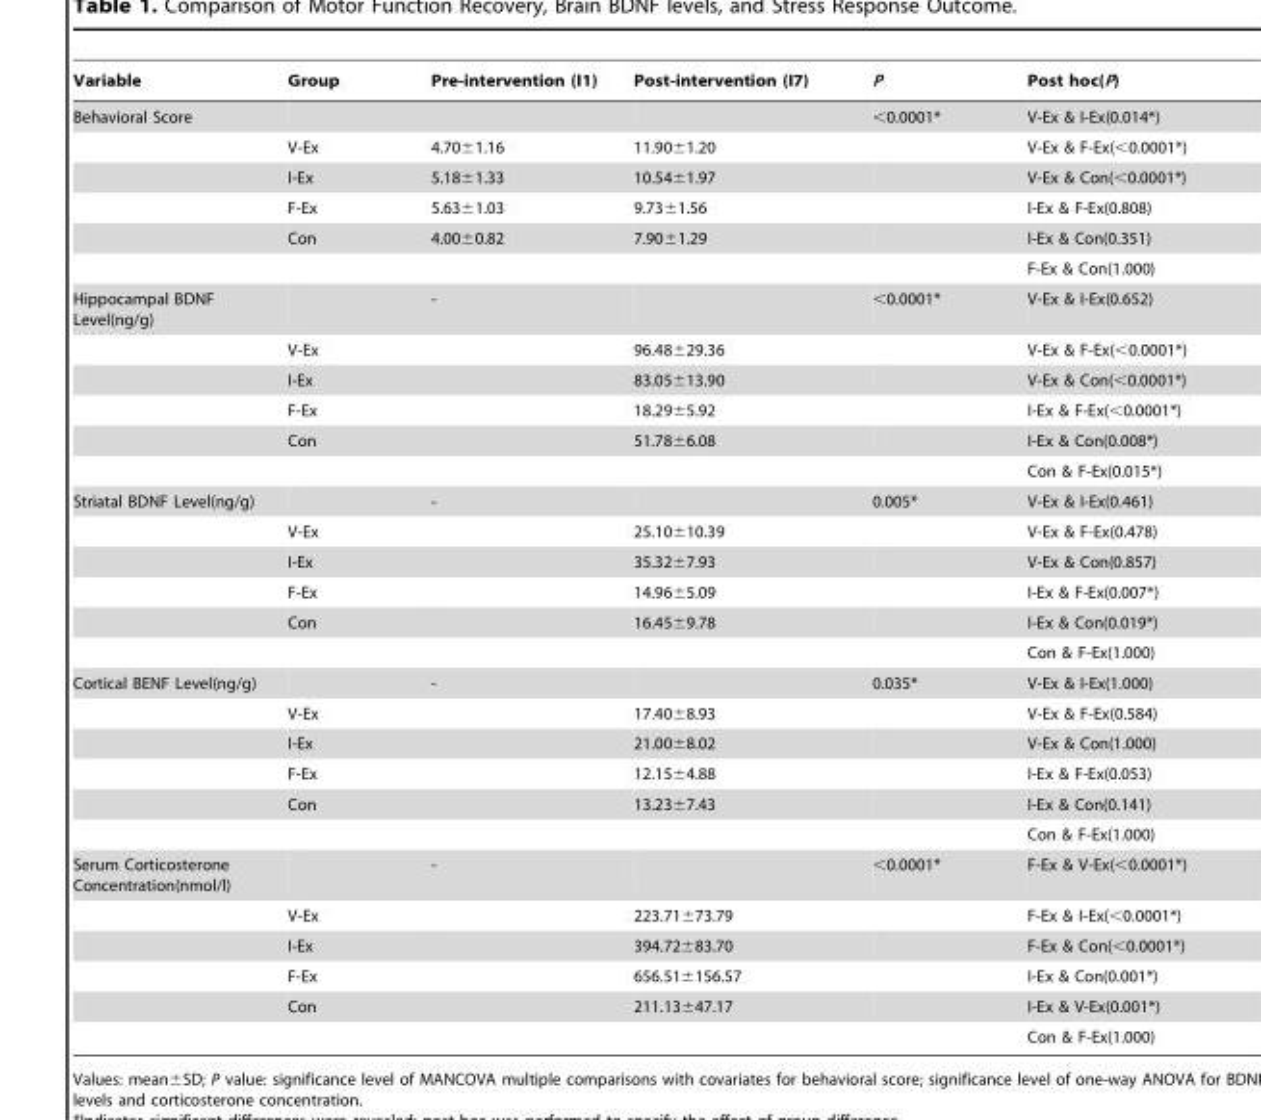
<table><thead><tr><td>Variable</td><td>Group</td><td>Pre-intervention (I1)</td><td>Post-intervention (I7)</td><td>P</td><td>Post hoc(P)</td></tr></thead><tbody><tr><td rowspan="6">Behavioral Score</td><td></td><td></td><td></td><td>&lt;0.0001*</td><td>V-Ex &amp; I-Ex(0.014*)</td></tr><tr><td>V-Ex</td><td>4.70±1.16</td><td>11.90±1.20</td><td></td><td>V-Ex &amp; F-Ex(&lt;0.0001*)</td></tr><tr><td>I-Ex</td><td>5.18±1.33</td><td>10.54±1.97</td><td></td><td>V-Ex &amp; Con(&lt;0.0001*)</td></tr><tr><td>F-Ex</td><td>5.63±1.03</td><td>9.73±1.56</td><td></td><td>I-Ex &amp; F-Ex(0.808)</td></tr><tr><td>Con</td><td>4.00±0.82</td><td>7.90±1.29</td><td></td><td>I-Ex &amp; Con(0.351)</td></tr><tr><td></td><td></td><td></td><td></td><td>F-Ex &amp; Con(1.000)</td></tr><tr><td rowspan="6">Hippocampal BDNF Level(ng/g)</td><td></td><td>-</td><td></td><td>&lt;0.0001*</td><td>V-Ex &amp; I-Ex(0.652)</td></tr><tr><td>V-Ex</td><td></td><td>96.48±29.36</td><td></td><td>V-Ex &amp; F-Ex(&lt;0.0001*)</td></tr><tr><td>I-Ex</td><td></td><td>83.05±13.90</td><td></td><td>V-Ex &amp; Con(&lt;0.0001*)</td></tr><tr><td>F-Ex</td><td></td><td>18.29±5.92</td><td></td><td>I-Ex &amp; F-Ex(&lt;0.0001*)</td></tr><tr><td>Con</td><td></td><td>51.78±6.08</td><td></td><td>I-Ex &amp; Con(0.008*)</td></tr><tr><td></td><td></td><td></td><td></td><td>Con &amp; F-Ex(0.015*)</td></tr><tr><td rowspan="6">Striatal BDNF Level(ng/g)</td><td></td><td>-</td><td></td><td>0.005*</td><td>V-Ex &amp; I-Ex(0.461)</td></tr><tr><td>V-Ex</td><td></td><td>25.10±10.39</td><td></td><td>V-Ex &amp; F-Ex(0.478)</td></tr><tr><td>I-Ex</td><td></td><td>35.32±7.93</td><td></td><td>V-Ex &amp; Con(0.857)</td></tr><tr><td>F-Ex</td><td></td><td>14.96±5.09</td><td></td><td>I-Ex &amp; F-Ex(0.007*)</td></tr><tr><td>Con</td><td></td><td>16.45±9.78</td><td></td><td>I-Ex &amp; Con(0.019*)</td></tr><tr><td></td><td></td><td></td><td></td><td>Con &amp; F-Ex(1.000)</td></tr><tr><td rowspan="6">Cortical BENF Level(ng/g)</td><td></td><td>-</td><td></td><td>0.035*</td><td>V-Ex &amp; I-Ex(1.000)</td></tr><tr><td>V-Ex</td><td></td><td>17.40±8.93</td><td></td><td>V-Ex &amp; F-Ex(0.584)</td></tr><tr><td>I-Ex</td><td></td><td>21.00±8.02</td><td></td><td>V-Ex &amp; Con(1.000)</td></tr><tr><td>F-Ex</td><td></td><td>12.15±4.88</td><td></td><td>I-Ex &amp; F-Ex(0.053)</td></tr><tr><td>Con</td><td></td><td>13.23±7.43</td><td></td><td>I-Ex &amp; Con(0.141)</td></tr><tr><td></td><td></td><td></td><td></td><td>Con &amp; F-Ex(1.000)</td></tr><tr><td rowspan="6">Serum Corticosterone Concentration(nmol/l)</td><td></td><td>-</td><td></td><td>&lt;0.0001*</td><td>F-Ex &amp; V-Ex(&lt;0.0001*)</td></tr><tr><td>V-Ex</td><td></td><td>223.71±73.79</td><td></td><td>F-Ex &amp; I-Ex(&lt;0.0001*)</td></tr><tr><td>I-Ex</td><td></td><td>394.72±83.70</td><td></td><td>F-Ex &amp; Con(&lt;0.0001*)</td></tr><tr><td>F-Ex</td><td></td><td>656.51±156.57</td><td></td><td>I-Ex &amp; Con(0.001*)</td></tr><tr><td>Con</td><td></td><td>211.13±47.17</td><td></td><td>I-Ex &amp; V-Ex(0.001*)</td></tr><tr><td></td><td></td><td></td><td></td><td>Con &amp; F-Ex(1.000)</td></tr></tbody></table>